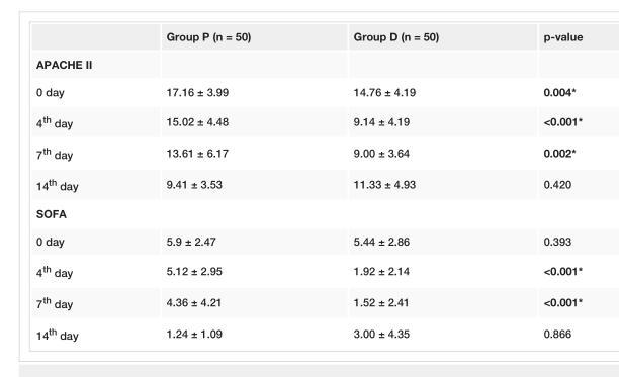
<table><thead><tr><td></td><td>Group P (n = 50)</td><td>Group D (n = 50)</td><td>p-value</td></tr></thead><tbody><tr><td colspan="4">APACHE II</td></tr><tr><td>0 day</td><td>17.16 ± 3.99</td><td>14.76 ± 4.19</td><td>0.004*</td></tr><tr><td>4<sup>th</sup> day</td><td>15.02 ± 4.48</td><td>9.14 ± 4.19</td><td>&lt;0.001*</td></tr><tr><td>7<sup>th</sup> day</td><td>13.61 ± 6.17</td><td>9.00 ± 3.64</td><td>0.002*</td></tr><tr><td>14<sup>th</sup> day</td><td>9.41 ± 3.53</td><td>11.33 ± 4.93</td><td>0.420</td></tr><tr><td colspan="4">SOFA</td></tr><tr><td>0 day</td><td>5.9 ± 2.47</td><td>5.44 ± 2.86</td><td>0.393</td></tr><tr><td>4<sup>th</sup> day</td><td>5.12 ± 2.95</td><td>1.92 ± 2.14</td><td>&lt;0.001*</td></tr><tr><td>7<sup>th</sup> day</td><td>4.36 ± 4.21</td><td>1.52 ± 2.41</td><td>&lt;0.001*</td></tr><tr><td>14<sup>th</sup> day</td><td>1.24 ± 1.09</td><td>3.00 ± 4.35</td><td>0.866</td></tr></tbody></table>